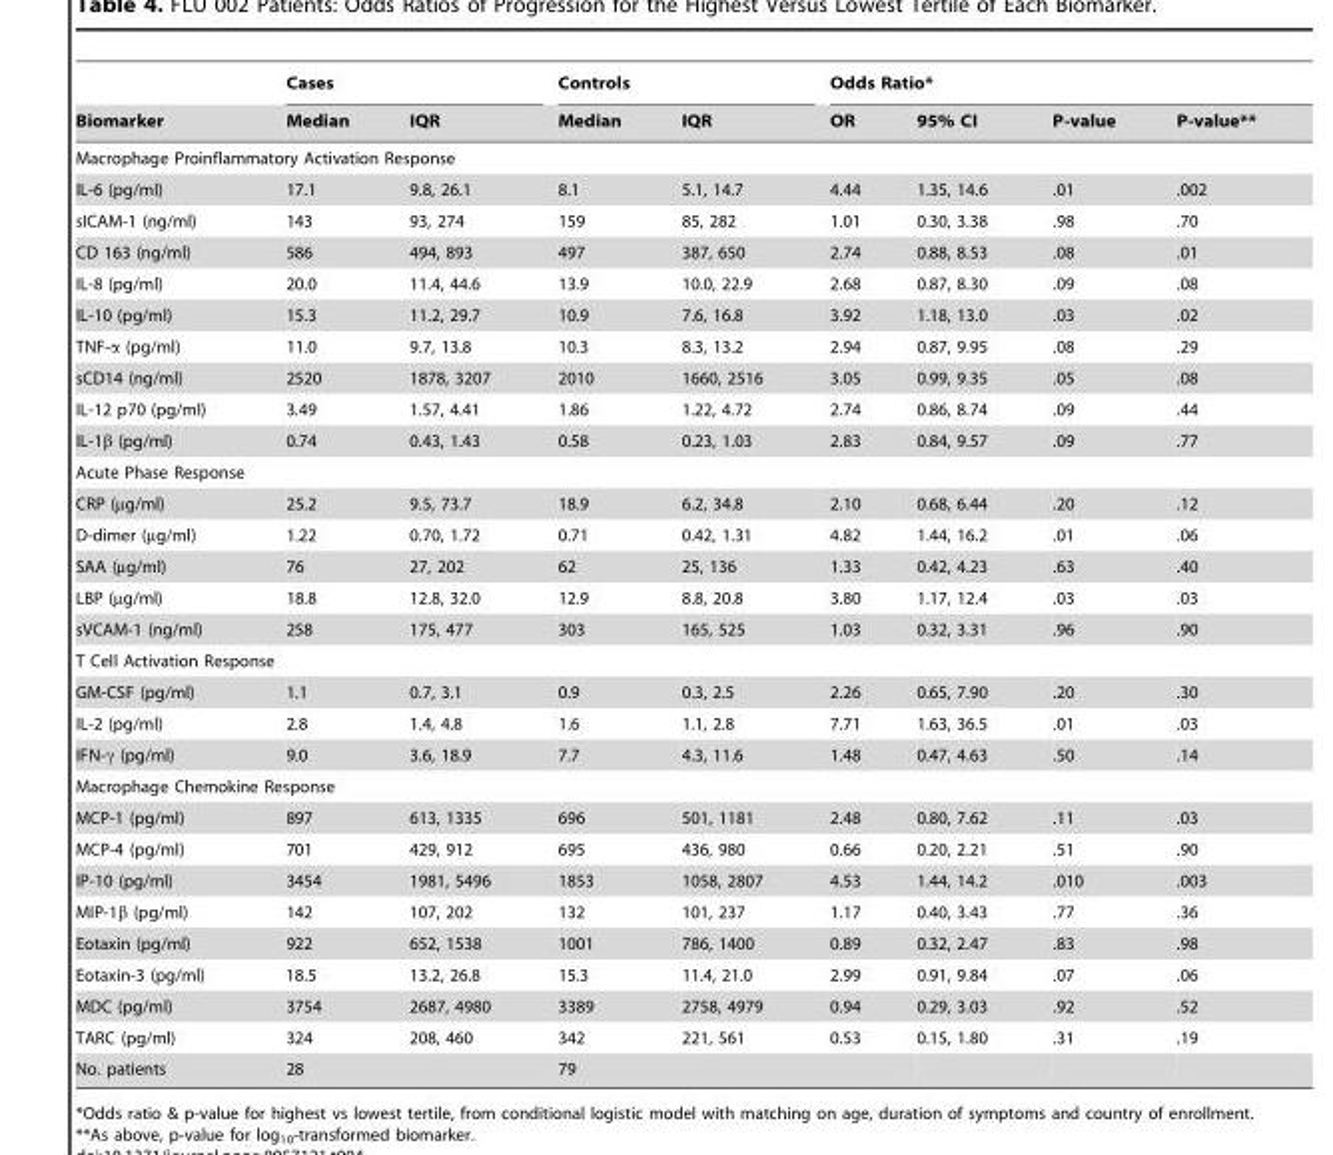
<table><thead><tr><td rowspan="2">Biomarker</td><td colspan="2">Cases</td><td colspan="2">Controls</td><td colspan="4">Odds Ratio*</td></tr><tr><td>Median</td><td>IQR</td><td>Median</td><td>IQR</td><td>OR</td><td>95% CI</td><td>P-value</td><td>P-value**</td></tr></thead><tbody><tr><td colspan="9">Macrophage Proinflammatory Activation Response</td></tr><tr><td>IL-6 (pg/ml)</td><td>17.1</td><td>9.8, 26.1</td><td>8.1</td><td>5.1, 14.7</td><td>4.44</td><td>1.35, 14.6</td><td>.01</td><td>.002</td></tr><tr><td>sICAM-1 (ng/ml)</td><td>143</td><td>93, 274</td><td>159</td><td>85, 282</td><td>1.01</td><td>0.30, 3.38</td><td>.98</td><td>.70</td></tr><tr><td>CD 163 (ng/ml)</td><td>586</td><td>494, 893</td><td>497</td><td>387, 650</td><td>2.74</td><td>0.88, 8.53</td><td>.08</td><td>.01</td></tr><tr><td>IL-8 (pg/ml)</td><td>20.0</td><td>11.4, 44.6</td><td>13.9</td><td>10.0, 22.9</td><td>2.68</td><td>0.87, 8.30</td><td>.09</td><td>.08</td></tr><tr><td>IL-10 (pg/ml)</td><td>15.3</td><td>11.2, 29.7</td><td>10.9</td><td>7.6, 16.8</td><td>3.92</td><td>1.18, 13.0</td><td>.03</td><td>.02</td></tr><tr><td>TNF-α (pg/ml)</td><td>11.0</td><td>9.7, 13.8</td><td>10.3</td><td>8.3, 13.2</td><td>2.94</td><td>0.87, 9.95</td><td>.08</td><td>.29</td></tr><tr><td>sCD14 (ng/ml)</td><td>2520</td><td>1878, 3207</td><td>2010</td><td>1660, 2516</td><td>3.05</td><td>0.99, 9.35</td><td>.05</td><td>.08</td></tr><tr><td>IL-12 p70 (pg/ml)</td><td>3.49</td><td>1.57, 4.41</td><td>1.86</td><td>1.22, 4.72</td><td>2.74</td><td>0.86, 8.74</td><td>.09</td><td>.44</td></tr><tr><td>IL-1β (pg/ml)</td><td>0.74</td><td>0.43, 1.43</td><td>0.58</td><td>0.23, 1.03</td><td>2.83</td><td>0.84, 9.57</td><td>.09</td><td>.77</td></tr><tr><td colspan="9">Acute Phase Response</td></tr><tr><td>CRP (µg/ml)</td><td>25.2</td><td>9.5, 73.7</td><td>18.9</td><td>6.2, 34.8</td><td>2.10</td><td>0.68, 6.44</td><td>.20</td><td>.12</td></tr><tr><td>D-dimer (µg/ml)</td><td>1.22</td><td>0.70, 1.72</td><td>0.71</td><td>0.42, 1.31</td><td>4.82</td><td>1.44, 16.2</td><td>.01</td><td>.06</td></tr><tr><td>SAA (µg/ml)</td><td>76</td><td>27, 202</td><td>62</td><td>25, 136</td><td>1.33</td><td>0.42, 4.23</td><td>.63</td><td>.40</td></tr><tr><td>LBP (µg/ml)</td><td>18.8</td><td>12.8, 32.0</td><td>12.9</td><td>8.8, 20.8</td><td>3.80</td><td>1.17, 12.4</td><td>.03</td><td>.03</td></tr><tr><td>sVCAM-1 (ng/ml)</td><td>258</td><td>175, 477</td><td>303</td><td>165, 525</td><td>1.03</td><td>0.32, 3.31</td><td>.96</td><td>.90</td></tr><tr><td colspan="9">T Cell Activation Response</td></tr><tr><td>GM-CSF (pg/ml)</td><td>1.1</td><td>0.7, 3.1</td><td>0.9</td><td>0.3, 2.5</td><td>2.26</td><td>0.65, 7.90</td><td>.20</td><td>.30</td></tr><tr><td>IL-2 (pg/ml)</td><td>2.8</td><td>1.4, 4.8</td><td>1.6</td><td>1.1, 2.8</td><td>7.71</td><td>1.63, 36.5</td><td>.01</td><td>.03</td></tr><tr><td>IFN-γ (pg/ml)</td><td>9.0</td><td>3.6, 18.9</td><td>7.7</td><td>4.3, 11.6</td><td>1.48</td><td>0.47, 4.63</td><td>.50</td><td>.14</td></tr><tr><td colspan="9">Macrophage Chemokine Response</td></tr><tr><td>MCP-1 (pg/ml)</td><td>897</td><td>613, 1335</td><td>696</td><td>501, 1181</td><td>2.48</td><td>0.80, 7.62</td><td>.11</td><td>.03</td></tr><tr><td>MCP-4 (pg/ml)</td><td>701</td><td>429, 912</td><td>695</td><td>436, 980</td><td>0.66</td><td>0.20, 2.21</td><td>.51</td><td>.90</td></tr><tr><td>IP-10 (pg/ml)</td><td>3454</td><td>1981, 5496</td><td>1853</td><td>1058, 2807</td><td>4.53</td><td>1.44, 14.2</td><td>.010</td><td>.003</td></tr><tr><td>MIP-1β (pg/ml)</td><td>142</td><td>107, 202</td><td>132</td><td>101, 237</td><td>1.17</td><td>0.40, 3.43</td><td>.77</td><td>.36</td></tr><tr><td>Eotaxin (pg/ml)</td><td>922</td><td>652, 1538</td><td>1001</td><td>786, 1400</td><td>0.89</td><td>0.32, 2.47</td><td>.83</td><td>.98</td></tr><tr><td>Eotaxin-3 (pg/ml)</td><td>18.5</td><td>13.2, 26.8</td><td>15.3</td><td>11.4, 21.0</td><td>2.99</td><td>0.91, 9.84</td><td>.07</td><td>.06</td></tr><tr><td>MDC (pg/ml)</td><td>3754</td><td>2687, 4980</td><td>3389</td><td>2758, 4979</td><td>0.94</td><td>0.29, 3.03</td><td>.92</td><td>.52</td></tr><tr><td>TARC (pg/ml)</td><td>324</td><td>208, 460</td><td>342</td><td>221, 561</td><td>0.53</td><td>0.15, 1.80</td><td>.31</td><td>.19</td></tr><tr><td>No. patients</td><td colspan="2">28</td><td colspan="2">79</td><td></td><td></td><td></td><td></td></tr></tbody></table>